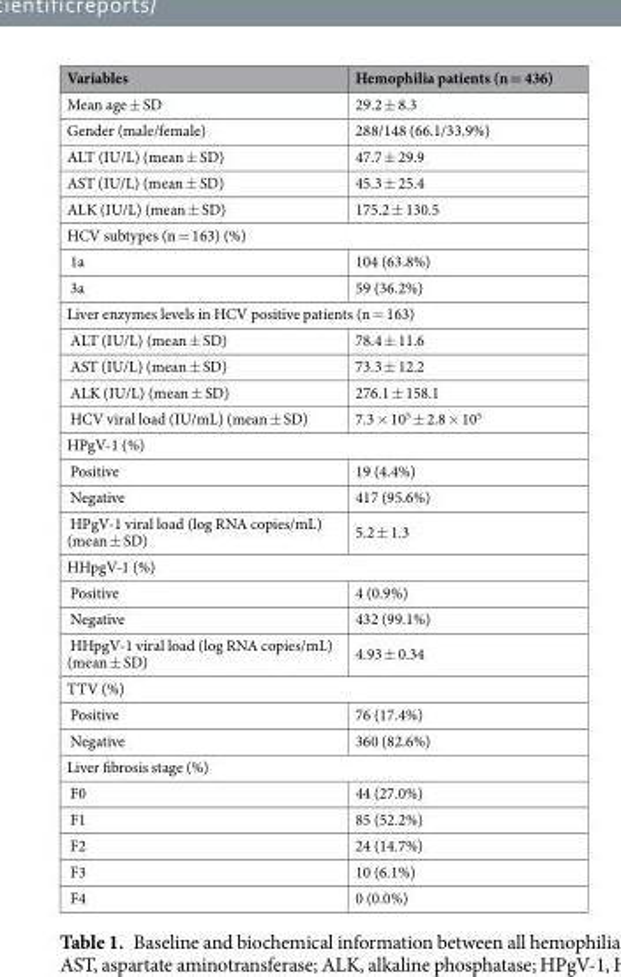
<table><thead><tr><td>Variables</td><td>Hemophilia patients (n = 436)</td></tr></thead><tbody><tr><td>Mean age ± SD</td><td>29.2 ± 8.3</td></tr><tr><td>Gender (male/female)</td><td>288/148 (66.1/33.9%)</td></tr><tr><td>ALT (IU/L) (mean ± SD)</td><td>47.7 ± 29.9</td></tr><tr><td>AST (IU/L) (mean ± SD)</td><td>45.3 ± 25.4</td></tr><tr><td>ALK (IU/L) (mean ± SD)</td><td>175.2 ± 130.5</td></tr><tr><td colspan="2">HCV subtypes (n = 163) (%)</td></tr><tr><td>1a</td><td>104 (63.8%)</td></tr><tr><td>3a</td><td>59 (36.2%)</td></tr><tr><td colspan="2">Liver enzymes levels in HCV positive patients (n = 163)</td></tr><tr><td>ALT (IU/L) (mean ± SD)</td><td>78.4 ± 11.6</td></tr><tr><td>AST (IU/L) (mean ± SD)</td><td>73.3 ± 12.2</td></tr><tr><td>ALK (IU/L) (mean ± SD)</td><td>276.1 ± 158.1</td></tr><tr><td>HCV viral load (IU/mL) (mean ± SD)</td><td>7.3 × 10<sup>5</sup> ± 2.8 × 10<sup>5</sup></td></tr><tr><td colspan="2">HPgV-1 (%)</td></tr><tr><td>Positive</td><td>19 (4.4%)</td></tr><tr><td>Negative</td><td>417 (95.6%)</td></tr><tr><td>HPgV-1 viral load (log RNA copies/mL) (mean ± SD)</td><td>5.2 ± 1.3</td></tr><tr><td colspan="2">HHpgV-1 (%)</td></tr><tr><td>Positive</td><td>4 (0.9%)</td></tr><tr><td>Negative</td><td>432 (99.1%)</td></tr><tr><td>HHpgV-1 viral load (log RNA copies/mL) (mean ± SD)</td><td>4.93 ± 0.34</td></tr><tr><td colspan="2">TTV (%)</td></tr><tr><td>Positive</td><td>76 (17.4%)</td></tr><tr><td>Negative</td><td>360 (82.6%)</td></tr><tr><td colspan="2">Liver fibrosis stage (%)</td></tr><tr><td>F0</td><td>44 (27.0%)</td></tr><tr><td>F1</td><td>85 (52.2%)</td></tr><tr><td>F2</td><td>24 (14.7%)</td></tr><tr><td>F3</td><td>10 (6.1%)</td></tr><tr><td>F4</td><td>0 (0.0%)</td></tr></tbody></table>